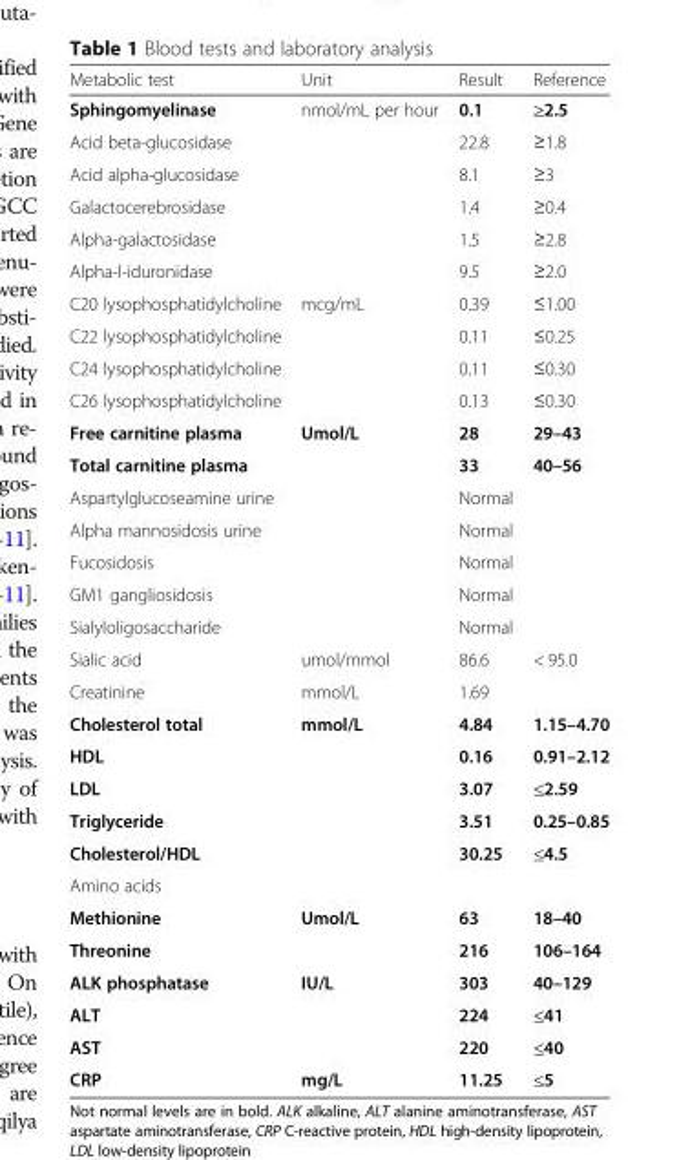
<table><thead><tr><td>Metabolic test</td><td>Unit</td><td>Result</td><td>Reference</td></tr></thead><tbody><tr><td>Sphingomyelinase</td><td rowspan="6">nmol/mL per hour</td><td>0.1</td><td>≥2.5</td></tr><tr><td>Acid beta-glucosidase</td><td>22.8</td><td>≥1.8</td></tr><tr><td>Acid alpha-glucosidase</td><td>8.1</td><td>≥3</td></tr><tr><td>Galactocerebrosidase</td><td>1.4</td><td>≥0.4</td></tr><tr><td>Alpha-galactosidase</td><td>1.5</td><td>≥2.8</td></tr><tr><td>Alpha-l-iduronidase</td><td>9.5</td><td>≥2.0</td></tr><tr><td>C20 lysophosphatidylcholine</td><td rowspan="4">mcg/mL</td><td>0.39</td><td>≤1.00</td></tr><tr><td>C22 lysophosphatidylcholine</td><td>0.11</td><td>≤0.25</td></tr><tr><td>C24 lysophosphatidylcholine</td><td>0.11</td><td>≤0.30</td></tr><tr><td>C26 lysophosphatidylcholine</td><td>0.13</td><td>≤0.30</td></tr><tr><td>Free carnitine plasma</td><td rowspan="2">Umol/L</td><td>28</td><td>29–43</td></tr><tr><td>Total carnitine plasma</td><td>33</td><td>40–56</td></tr><tr><td>Aspartylglucoseamine urine</td><td></td><td>Normal</td><td></td></tr><tr><td>Alpha mannosidosis urine</td><td></td><td>Normal</td><td></td></tr><tr><td>Fucosidosis</td><td></td><td>Normal</td><td></td></tr><tr><td>GM1 gangliosidosis</td><td></td><td>Normal</td><td></td></tr><tr><td>Sialyloligosaccharide</td><td></td><td>Normal</td><td></td></tr><tr><td>Sialic acid</td><td>umol/mmol</td><td>86.6</td><td>&lt; 95.0</td></tr><tr><td>Creatinine</td><td>mmol/L</td><td>1.69</td><td></td></tr><tr><td>Cholesterol total</td><td rowspan="4">mmol/L</td><td>4.84</td><td>1.15–4.70</td></tr><tr><td>HDL</td><td>0.16</td><td>0.91–2.12</td></tr><tr><td>LDL</td><td>3.07</td><td>≤2.59</td></tr><tr><td>Triglyceride</td><td>3.51</td><td>0.25–0.85</td></tr><tr><td>Cholesterol/HDL</td><td></td><td>30.25</td><td>≤4.5</td></tr><tr><td colspan="4">Amino acids</td></tr><tr><td>Methionine</td><td rowspan="2">Umol/L</td><td>63</td><td>18–40</td></tr><tr><td>Threonine</td><td>216</td><td>106–164</td></tr><tr><td>ALK phosphatase</td><td rowspan="3">IU/L</td><td>303</td><td>40–129</td></tr><tr><td>ALT</td><td>224</td><td>≤41</td></tr><tr><td>AST</td><td>220</td><td>≤40</td></tr><tr><td>CRP</td><td>mg/L</td><td>11.25</td><td>≤5</td></tr></tbody></table>